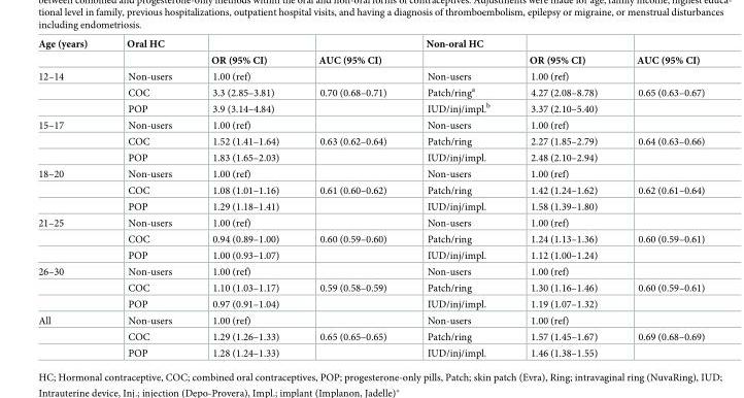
<table><thead><tr><td rowspan="2">Age (years)</td><td rowspan="2">Oral HC</td><td rowspan="2">OR (95% CI)</td><td rowspan="2">AUC (95% CI)</td><td rowspan="2">Non-oral HC</td><td rowspan="2">OR (95% CI)</td><td rowspan="2">AUC (95% CI)</td></tr><tr></tr></thead><tbody><tr><td rowspan="3">12–14</td><td>Non-users</td><td>1.00 (ref)</td><td></td><td>Non-users</td><td>1.00 (ref)</td><td></td></tr><tr><td>COC</td><td>3.3 (2.85–3.81)</td><td>0.70 (0.68–0.71)</td><td>Patch/ring<sup>a</sup></td><td>4.27 (2.08–8.78)</td><td>0.65 (0.63–0.67)</td></tr><tr><td>POP</td><td>3.9 (3.14–4.84)</td><td></td><td>IUD/inj/impl.<sup>b</sup></td><td>3.37 (2.10–5.40)</td><td></td></tr><tr><td rowspan="3">15–17</td><td>Non-users</td><td>1.00 (ref)</td><td></td><td>Non-users</td><td>1.00 (ref)</td><td></td></tr><tr><td>COC</td><td>1.52 (1.41–1.64)</td><td>0.63 (0.62–0.64)</td><td>Patch/ring</td><td>2.27 (1.85–2.79)</td><td>0.64 (0.63–0.66)</td></tr><tr><td>POP</td><td>1.83 (1.65–2.03)</td><td></td><td>IUD/inj/impl.</td><td>2.48 (2.10–2.94)</td><td></td></tr><tr><td rowspan="3">18–20</td><td>Non-users</td><td>1.00 (ref)</td><td></td><td>Non-users</td><td>1.00 (ref)</td><td></td></tr><tr><td>COC</td><td>1.08 (1.01–1.16)</td><td>0.61 (0.60–0.62)</td><td>Patch/ring</td><td>1.42 (1.24–1.62)</td><td>0.62 (0.61–0.64)</td></tr><tr><td>POP</td><td>1.29 (1.18–1.41)</td><td></td><td>IUD/inj/impl.</td><td>1.58 (1.39–1.80)</td><td></td></tr><tr><td rowspan="3">21–25</td><td>Non-users</td><td>1.00 (ref)</td><td></td><td>Non-users</td><td>1.00 (ref)</td><td></td></tr><tr><td>COC</td><td>0.94 (0.89–1.00)</td><td>0.60 (0.59–0.60)</td><td>Patch/ring</td><td>1.24 (1.13–1.36)</td><td>0.60 (0.59–0.61)</td></tr><tr><td>POP</td><td>1.00 (0.93–1.07)</td><td></td><td>IUD/inj/impl.</td><td>1.12 (1.00–1.24)</td><td></td></tr><tr><td rowspan="3">26–30</td><td>Non-users</td><td>1.00 (ref)</td><td></td><td>Non-users</td><td>1.00 (ref)</td><td></td></tr><tr><td>COC</td><td>1.10 (1.03–1.17)</td><td>0.59 (0.58–0.59)</td><td>Patch/ring</td><td>1.30 (1.16–1.46)</td><td>0.60 (0.59–0.61)</td></tr><tr><td>POP</td><td>0.97 (0.91–1.04)</td><td></td><td>IUD/inj/impl.</td><td>1.19 (1.07–1.32)</td><td></td></tr><tr><td rowspan="3">All</td><td>Non-users</td><td>1.00 (ref)</td><td></td><td>Non-users</td><td>1.00 (ref)</td><td></td></tr><tr><td>COC</td><td>1.29 (1.26–1.33)</td><td>0.65 (0.65–0.65)</td><td>Patch/ring</td><td>1.57 (1.45–1.67)</td><td>0.69 (0.68–0.69)</td></tr><tr><td>POP</td><td>1.28 (1.24–1.33)</td><td></td><td>IUD/inj/impl.</td><td>1.46 (1.38–1.55)</td><td></td></tr></tbody></table>